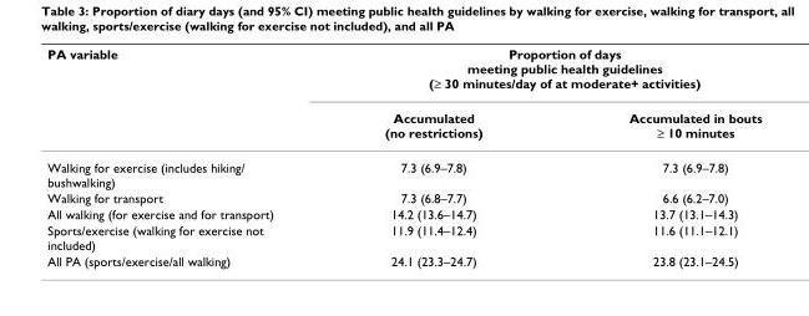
<table><thead><tr><td rowspan="2">PA variable</td><td colspan="2">Proportion of days meeting public health guidelines (≥ 30 minutes/day of at moderate+ activities)</td></tr><tr><td>Accumulated (no restrictions)</td><td>Accumulated in bouts ≥ 10 minutes</td></tr></thead><tbody><tr><td>Walking for exercise (includes hiking/ bushwalking)</td><td>7.3 (6.9–7.8)</td><td>7.3 (6.9–7.8)</td></tr><tr><td>Walking for transport</td><td>7.3 (6.8–7.7)</td><td>6.6 (6.2–7.0)</td></tr><tr><td>All walking (for exercise and for transport)</td><td>14.2 (13.6–14.7)</td><td>13.7 (13.1–14.3)</td></tr><tr><td>Sports/exercise (walking for exercise not included)</td><td>11.9 (11.4–12.4)</td><td>11.6 (11.1–12.1)</td></tr><tr><td>All PA (sports/exercise/all walking)</td><td>24.1 (23.3–24.7)</td><td>23.8 (23.1–24.5)</td></tr></tbody></table>